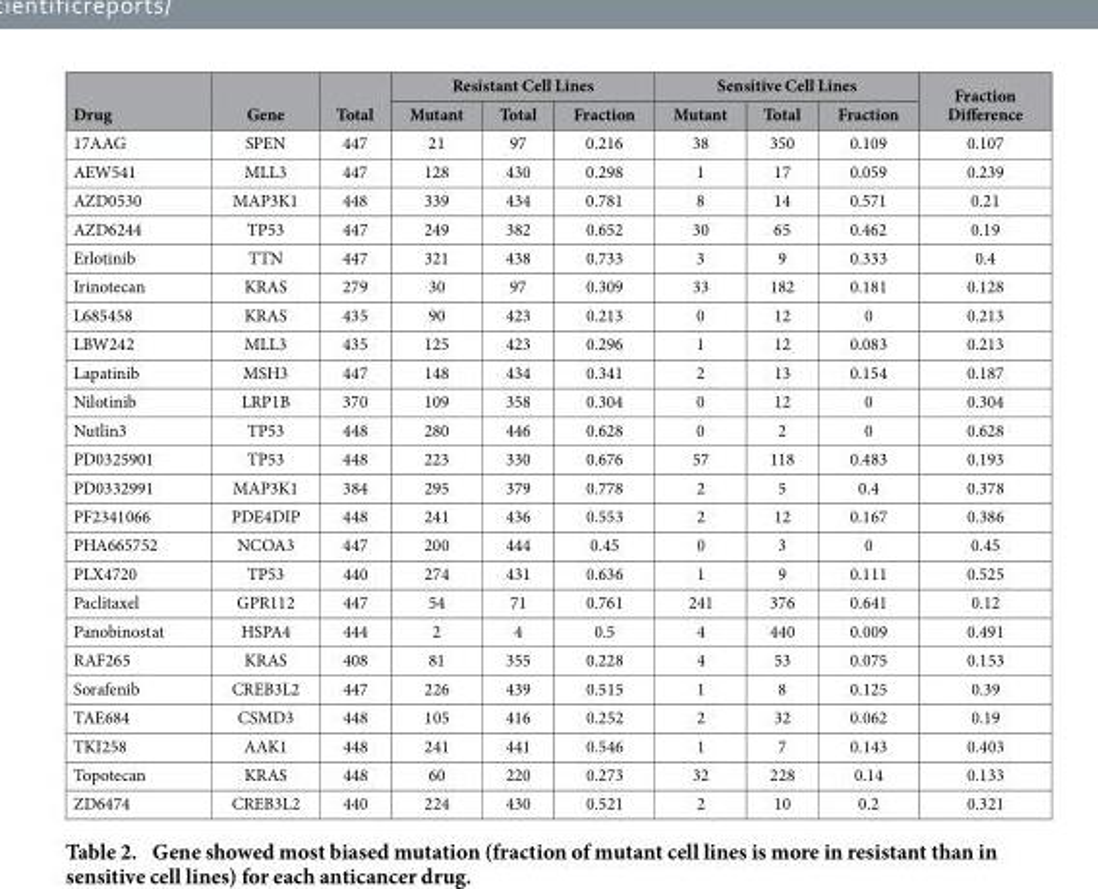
<table><thead><tr><td rowspan="2">Drug</td><td rowspan="2">Gene</td><td rowspan="2">Total</td><td colspan="3">Resistant Cell Lines</td><td colspan="3">Sensitive Cell Lines</td><td rowspan="2">Fraction Difference</td></tr><tr><td>Mutant</td><td>Total</td><td>Fraction</td><td>Mutant</td><td>Total</td><td>Fraction</td></tr></thead><tbody><tr><td>17AAG</td><td>SPEN</td><td>447</td><td>21</td><td>97</td><td>0.216</td><td>38</td><td>350</td><td>0.109</td><td>0.107</td></tr><tr><td>AEW541</td><td>MLL3</td><td>447</td><td>128</td><td>430</td><td>0.298</td><td>1</td><td>17</td><td>0.059</td><td>0.239</td></tr><tr><td>AZD0530</td><td>MAP3K1</td><td>448</td><td>339</td><td>434</td><td>0.781</td><td>8</td><td>14</td><td>0.571</td><td>0.21</td></tr><tr><td>AZD6244</td><td>TP53</td><td>447</td><td>249</td><td>382</td><td>0.652</td><td>30</td><td>65</td><td>0.462</td><td>0.19</td></tr><tr><td>Erlotinib</td><td>TTN</td><td>447</td><td>321</td><td>438</td><td>0.733</td><td>3</td><td>9</td><td>0.333</td><td>0.4</td></tr><tr><td>Irinotecan</td><td>KRAS</td><td>279</td><td>30</td><td>97</td><td>0.309</td><td>33</td><td>182</td><td>0.181</td><td>0.128</td></tr><tr><td>L685458</td><td>KRAS</td><td>435</td><td>90</td><td>423</td><td>0.213</td><td>0</td><td>12</td><td>0</td><td>0.213</td></tr><tr><td>LBW242</td><td>MLL3</td><td>435</td><td>125</td><td>423</td><td>0.296</td><td>1</td><td>12</td><td>0.083</td><td>0.213</td></tr><tr><td>Lapatinib</td><td>MSH3</td><td>447</td><td>148</td><td>434</td><td>0.341</td><td>2</td><td>13</td><td>0.154</td><td>0.187</td></tr><tr><td>Nilotinib</td><td>LRP1B</td><td>370</td><td>109</td><td>358</td><td>0.304</td><td>0</td><td>12</td><td>0</td><td>0.304</td></tr><tr><td>Nutlin3</td><td>TP53</td><td>448</td><td>280</td><td>446</td><td>0.628</td><td>0</td><td>2</td><td>0</td><td>0.628</td></tr><tr><td>PD0325901</td><td>TP53</td><td>448</td><td>223</td><td>330</td><td>0.676</td><td>57</td><td>118</td><td>0.483</td><td>0.193</td></tr><tr><td>PD0332991</td><td>MAP3K1</td><td>384</td><td>295</td><td>379</td><td>0.778</td><td>2</td><td>5</td><td>0.4</td><td>0.378</td></tr><tr><td>PF2341066</td><td>PDE4DIP</td><td>448</td><td>241</td><td>436</td><td>0.553</td><td>2</td><td>12</td><td>0.167</td><td>0.386</td></tr><tr><td>PHA665752</td><td>NCOA3</td><td>447</td><td>200</td><td>444</td><td>0.45</td><td>0</td><td>3</td><td>0</td><td>0.45</td></tr><tr><td>PLX4720</td><td>TP53</td><td>440</td><td>274</td><td>431</td><td>0.636</td><td>1</td><td>9</td><td>0.111</td><td>0.525</td></tr><tr><td>Paclitaxel</td><td>GPR112</td><td>447</td><td>54</td><td>71</td><td>0.761</td><td>241</td><td>376</td><td>0.641</td><td>0.12</td></tr><tr><td>Panobinostat</td><td>HSPA4</td><td>444</td><td>2</td><td>4</td><td>0.5</td><td>4</td><td>440</td><td>0.009</td><td>0.491</td></tr><tr><td>RAF265</td><td>KRAS</td><td>408</td><td>81</td><td>355</td><td>0.228</td><td>4</td><td>53</td><td>0.075</td><td>0.153</td></tr><tr><td>Sorafenib</td><td>CREB3L2</td><td>447</td><td>226</td><td>439</td><td>0.515</td><td>1</td><td>8</td><td>0.125</td><td>0.39</td></tr><tr><td>TAE684</td><td>CSMD3</td><td>448</td><td>105</td><td>416</td><td>0.252</td><td>2</td><td>32</td><td>0.062</td><td>0.19</td></tr><tr><td>TKI258</td><td>AAK1</td><td>448</td><td>241</td><td>441</td><td>0.546</td><td>1</td><td>7</td><td>0.143</td><td>0.403</td></tr><tr><td>Topotecan</td><td>KRAS</td><td>448</td><td>60</td><td>220</td><td>0.273</td><td>32</td><td>228</td><td>0.14</td><td>0.133</td></tr><tr><td>ZD6474</td><td>CREB3L2</td><td>440</td><td>224</td><td>430</td><td>0.521</td><td>2</td><td>10</td><td>0.2</td><td>0.321</td></tr></tbody></table>